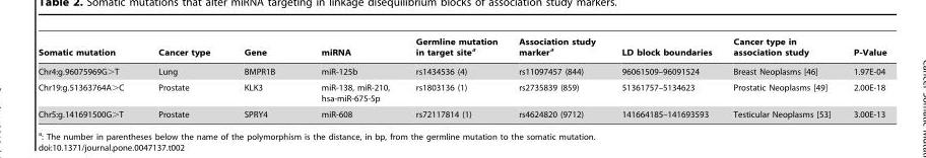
<table><thead><tr><td>Somatic mutation</td><td>Cancer type</td><td>Gene</td><td>miRNA</td><td>Germline mutation in target site<sup>a</sup></td><td>Association study marker<sup>a</sup></td><td>LD block boundaries</td><td>Cancer type in association study</td><td>P-Value</td></tr></thead><tbody><tr><td>Chr4:g.96075969G&gt;T</td><td>Lung</td><td>BMPR1B</td><td>miR-125b</td><td>rs1434536 (4)</td><td>rs11097457 (844)</td><td>96061509–96091524</td><td>Breast Neoplasms [46]</td><td>1.97E-04</td></tr><tr><td>Chr19:g.51363764A&gt;C</td><td>Prostate</td><td>KLK3</td><td>miR-138, miR-210, hsa-miR-675-5p</td><td>rs1803136 (1)</td><td>rs2735839 (859)</td><td>51361757–5134623</td><td>Prostatic Neoplasms [49]</td><td>2.00E-18</td></tr><tr><td>Chr5:g.141691500G&gt;T</td><td>Prostate</td><td>SPRY4</td><td>miR-608</td><td>rs72117814 (1)</td><td>rs4624820 (9712)</td><td>141664185–141693593</td><td>Testicular Neoplasms [53]</td><td>3.00E-13</td></tr></tbody></table>